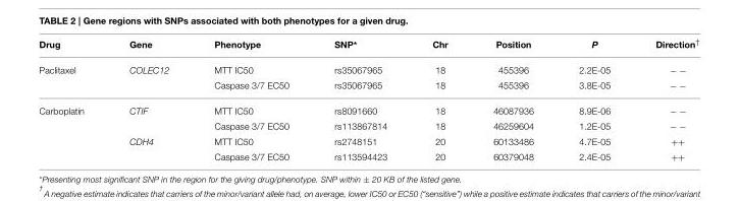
<table><thead><tr><td>Drug</td><td>Gene</td><td>Phenotype</td><td>SNP*</td><td>Chr</td><td>Position</td><td>P</td><td>Direction<sup>†</sup></td></tr></thead><tbody><tr><td rowspan="2">Paclitaxel</td><td>COLEC12</td><td>MTT IC50</td><td>rs35067965</td><td>18</td><td>455396</td><td>2.2E-05</td><td>− −</td></tr><tr><td></td><td>Caspase 3/7 EC50</td><td>rs35067965</td><td>18</td><td>455396</td><td>3.8E-05</td><td>− −</td></tr><tr><td rowspan="4">Carboplatin</td><td>CTIF</td><td>MTT IC50</td><td>rs8091660</td><td>18</td><td>46087936</td><td>8.9E-06</td><td>− −</td></tr><tr><td></td><td>Caspase 3/7 EC50</td><td>rs113867814</td><td>18</td><td>46259604</td><td>1.2E-05</td><td>− −</td></tr><tr><td>CDH4</td><td>MTT IC50</td><td>rs2748151</td><td>20</td><td>60133486</td><td>4.7E-05</td><td>++</td></tr><tr><td></td><td>Caspase 3/7 EC50</td><td>rs113594423</td><td>20</td><td>60379048</td><td>2.4E-05</td><td>++</td></tr></tbody></table>